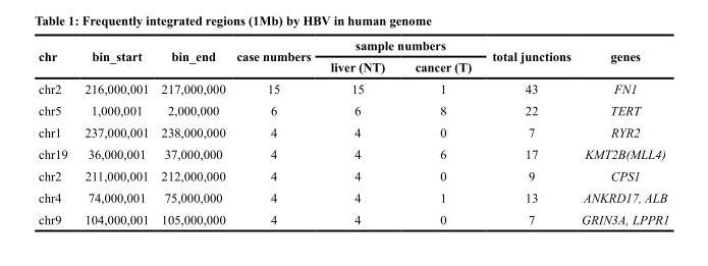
<table><thead><tr><td rowspan="2">chr</td><td rowspan="2">bin_start</td><td rowspan="2">bin_end</td><td rowspan="2">case numbers</td><td colspan="2">sample numbers</td><td rowspan="2">total junctions</td><td rowspan="2">genes</td></tr><tr><td>liver (NT)</td><td>cancer (T)</td></tr></thead><tbody><tr><td>chr2</td><td>216,000,001</td><td>217,000,000</td><td>15</td><td>15</td><td>1</td><td>43</td><td>FN1</td></tr><tr><td>chr5</td><td>1,000,001</td><td>2,000,000</td><td>6</td><td>6</td><td>8</td><td>22</td><td>TERT</td></tr><tr><td>chr1</td><td>237,000,001</td><td>238,000,000</td><td>4</td><td>4</td><td>0</td><td>7</td><td>RYR2</td></tr><tr><td>chr19</td><td>36,000,001</td><td>37,000,000</td><td>4</td><td>4</td><td>6</td><td>17</td><td>KMT2B(MLL4)</td></tr><tr><td>chr2</td><td>211,000,001</td><td>212,000,000</td><td>4</td><td>4</td><td>0</td><td>9</td><td>CPS1</td></tr><tr><td>chr4</td><td>74,000,001</td><td>75,000,000</td><td>4</td><td>4</td><td>1</td><td>13</td><td>ANKRD17, ALB</td></tr><tr><td>chr9</td><td>104,000,001</td><td>105,000,000</td><td>4</td><td>4</td><td>0</td><td>7</td><td>GRIN3A, LPPR1</td></tr></tbody></table>